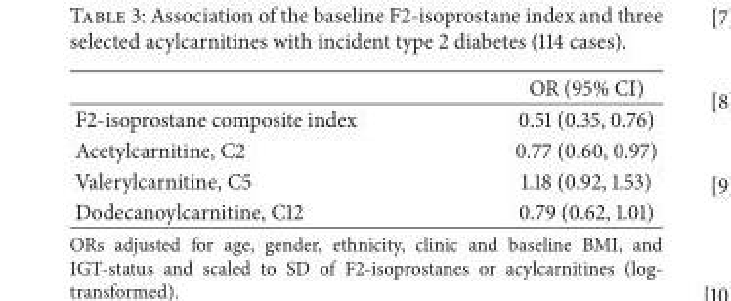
<table><thead><tr><td></td><td>OR (95% CI)</td></tr></thead><tbody><tr><td>F2-isoprostane composite index</td><td>0.51 (0.35, 0.76)</td></tr><tr><td>Acetylcarnitine, C2</td><td>0.77 (0.60, 0.97)</td></tr><tr><td>Valerylcarnitine, C5</td><td>1.18 (0.92, 1.53)</td></tr><tr><td>Dodecanoylcarnitine, C12</td><td>0.79 (0.62, 1.01)</td></tr></tbody></table>